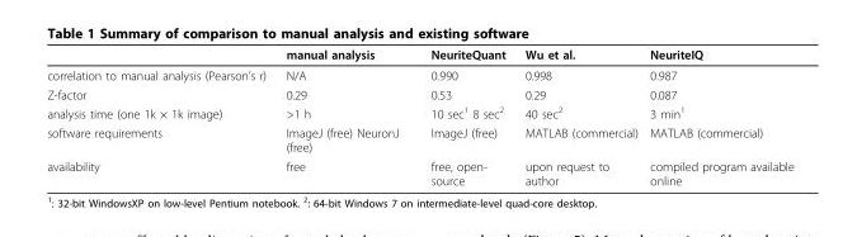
<table><thead><tr><td></td><td>manual analysis</td><td>NeuriteQuant</td><td>Wu et al.</td><td>NeuriteIQ</td></tr></thead><tbody><tr><td>correlation to manual analysis (Pearson’s r)</td><td>N/A</td><td>0.990</td><td>0.998</td><td>0.987</td></tr><tr><td>Z-factor</td><td>0.29</td><td>0.53</td><td>0.29</td><td>0.087</td></tr><tr><td>analysis time (one 1k × 1k image)</td><td>&gt;1 h</td><td>10 sec<sup>1</sup> 8 sec<sup>2</sup></td><td>40 sec<sup>2</sup></td><td>3 min<sup>1</sup></td></tr><tr><td>software requirements</td><td>ImageJ (free) NeuronJ (free)</td><td>ImageJ (free)</td><td>MATLAB (commercial)</td><td>MATLAB (commercial)</td></tr><tr><td>availability</td><td>free</td><td>free, open- source</td><td>upon request to author</td><td>compiled program available online</td></tr></tbody></table>